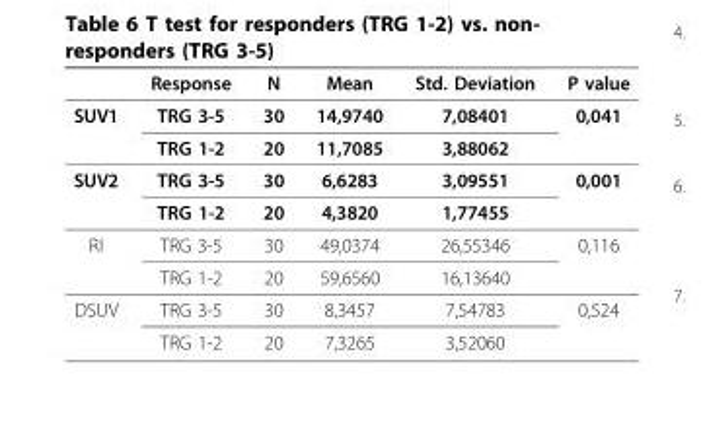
<table><thead><tr><td></td><td>Response</td><td>N</td><td>Mean</td><td>Std. Deviation</td><td>P value</td></tr></thead><tbody><tr><td rowspan="2">SUV1</td><td>TRG 3-5</td><td>30</td><td>14,9740</td><td>7,08401</td><td>0,041</td></tr><tr><td>TRG 1-2</td><td>20</td><td>11,7085</td><td>3,88062</td><td></td></tr><tr><td rowspan="2">SUV2</td><td>TRG 3-5</td><td>30</td><td>6,6283</td><td>3,09551</td><td>0,001</td></tr><tr><td>TRG 1-2</td><td>20</td><td>4,3820</td><td>1,77455</td><td></td></tr><tr><td rowspan="2">RI</td><td>TRG 3-5</td><td>30</td><td>49,0374</td><td>26,55346</td><td>0,116</td></tr><tr><td>TRG 1-2</td><td>20</td><td>59,6560</td><td>16,13640</td><td></td></tr><tr><td rowspan="2">DSUV</td><td>TRG 3-5</td><td>30</td><td>8,3457</td><td>7,54783</td><td>0,524</td></tr><tr><td>TRG 1-2</td><td>20</td><td>7,3265</td><td>3,52060</td><td></td></tr></tbody></table>